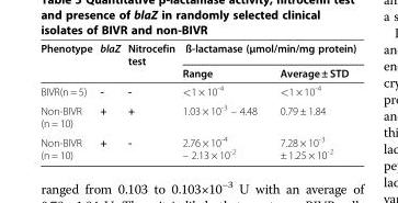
<table><thead><tr><td rowspan="2">Phenotype</td><td rowspan="2">blaZ</td><td rowspan="2">Nitrocefin test</td><td colspan="2">ß-lactamase (μmol/min/mg protein)</td></tr><tr><td>Range</td><td>Average ± STD</td></tr></thead><tbody><tr><td>BIVR(n = 5)</td><td>-</td><td>-</td><td>&lt;1 × 10<sup>-4</sup></td><td>&lt;1 × 10<sup>-4</sup></td></tr><tr><td>Non-BIVR (n = 10)</td><td>+</td><td>+</td><td>1.03 × 10<sup>-3</sup> – 4.48</td><td>0.79 ± 1.84</td></tr><tr><td>Non-BIVR (n = 10)</td><td>+</td><td>-</td><td>2.76 × 10<sup>-4</sup> – 2.13 × 10<sup>-2</sup></td><td>7.28 × 10<sup>-3</sup> ± 1.25 × 10<sup>-2</sup></td></tr></tbody></table>